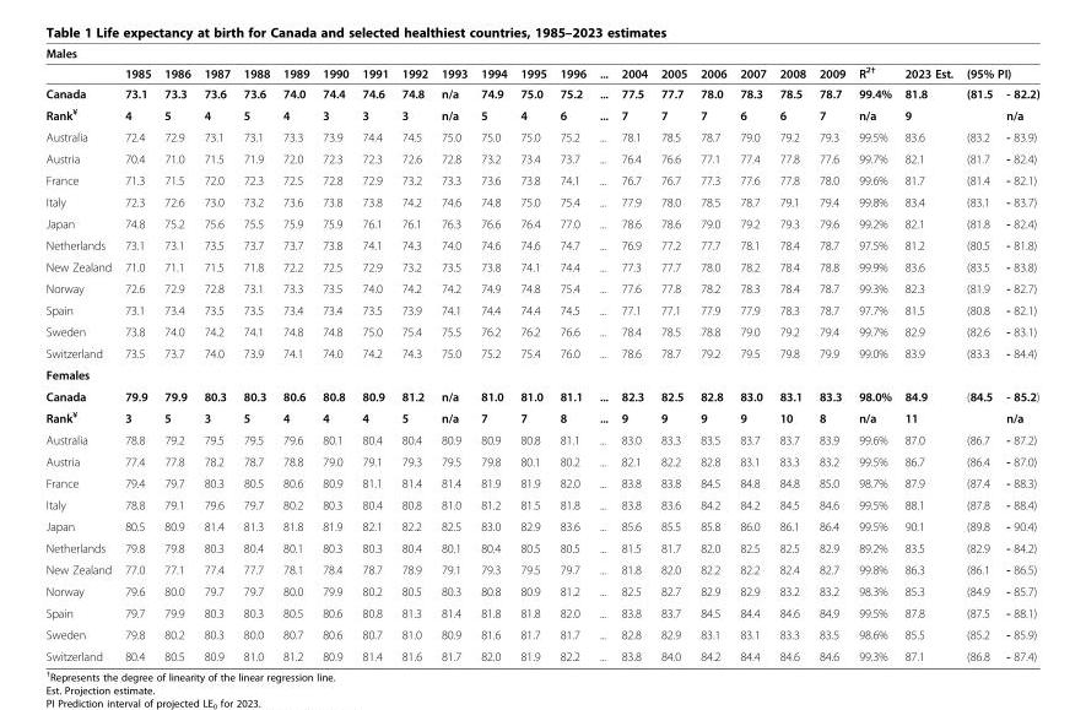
<table><thead><tr><td colspan="24">Males</td></tr><tr><td rowspan="2">Canada</td><td rowspan="2">1985 73.1</td><td rowspan="2">1986 73.3</td><td rowspan="2">1987 73.6</td><td rowspan="2">1988 73.6</td><td rowspan="2">1989 74.0</td><td rowspan="2">1990 74.4</td><td rowspan="2">1991 74.6</td><td rowspan="2">1992 74.8</td><td rowspan="2">1993 n/a</td><td rowspan="2">1994 74.9</td><td rowspan="2">1995 75.0</td><td rowspan="2">1996 75.2</td><td rowspan="2">... ...</td><td rowspan="2">2004 77.5</td><td rowspan="2">2005 77.7</td><td rowspan="2">2006 78.0</td><td rowspan="2">2007 78.3</td><td rowspan="2">2008 78.5</td><td rowspan="2">2009 78.7</td><td rowspan="2">R<sup>2†</sup> 99.4%</td><td rowspan="2">2023 Est. 81.8</td><td colspan="2">(95% PI)</td></tr><tr><td>(81.5</td><td>- 82.2)</td></tr></thead><tbody><tr><td>Rank<sup>¥</sup></td><td>4</td><td>5</td><td>4</td><td>5</td><td>4</td><td>3</td><td>3</td><td>3</td><td>n/a</td><td>5</td><td>4</td><td>6</td><td>...</td><td>7</td><td>7</td><td>7</td><td>6</td><td>6</td><td>7</td><td>n/a</td><td>9</td><td></td><td>n/a</td></tr><tr><td>Australia</td><td>72.4</td><td>72.9</td><td>73.1</td><td>73.1</td><td>73.3</td><td>73.9</td><td>74.4</td><td>74.5</td><td>75.0</td><td>75.0</td><td>75.0</td><td>75.2</td><td>...</td><td>78.1</td><td>78.5</td><td>78.7</td><td>79.0</td><td>79.2</td><td>79.3</td><td>99.5%</td><td>83.6</td><td>(83.2</td><td>- 83.9)</td></tr><tr><td>Austria</td><td>70.4</td><td>71.0</td><td>71.5</td><td>71.9</td><td>72.0</td><td>72.3</td><td>72.3</td><td>72.6</td><td>72.8</td><td>73.2</td><td>73.4</td><td>73.7</td><td>...</td><td>76.4</td><td>76.6</td><td>77.1</td><td>77.4</td><td>77.8</td><td>77.6</td><td>99.7%</td><td>82.1</td><td>(81.7</td><td>- 82.4)</td></tr><tr><td>France</td><td>71.3</td><td>71.5</td><td>72.0</td><td>72.3</td><td>72.5</td><td>72.8</td><td>72.9</td><td>73.2</td><td>73.3</td><td>73.6</td><td>73.8</td><td>74.1</td><td>...</td><td>76.7</td><td>76.7</td><td>77.3</td><td>77.6</td><td>77.8</td><td>78.0</td><td>99.6%</td><td>81.7</td><td>(81.4</td><td>- 82.1)</td></tr><tr><td>Italy</td><td>72.3</td><td>72.6</td><td>73.0</td><td>73.2</td><td>73.6</td><td>73.8</td><td>73.8</td><td>74.2</td><td>74.6</td><td>74.8</td><td>75.0</td><td>75.4</td><td>...</td><td>77.9</td><td>78.0</td><td>78.5</td><td>78.7</td><td>79.1</td><td>79.4</td><td>99.8%</td><td>83.4</td><td>(83.1</td><td>- 83.7)</td></tr><tr><td>Japan</td><td>74.8</td><td>75.2</td><td>75.6</td><td>75.5</td><td>75.9</td><td>75.9</td><td>76.1</td><td>76.1</td><td>76.3</td><td>76.6</td><td>76.4</td><td>77.0</td><td>...</td><td>78.6</td><td>78.6</td><td>79.0</td><td>79.2</td><td>79.3</td><td>79.6</td><td>99.2%</td><td>82.1</td><td>(81.8</td><td>- 82.4)</td></tr><tr><td>Netherlands</td><td>73.1</td><td>73.1</td><td>73.5</td><td>73.7</td><td>73.7</td><td>73.8</td><td>74.1</td><td>74.3</td><td>74.0</td><td>74.6</td><td>74.6</td><td>74.7</td><td>...</td><td>76.9</td><td>77.2</td><td>77.7</td><td>78.1</td><td>78.4</td><td>78.7</td><td>97.5%</td><td>81.2</td><td>(80.5</td><td>- 81.8)</td></tr><tr><td>New Zealand</td><td>71.0</td><td>71.1</td><td>71.5</td><td>71.8</td><td>72.2</td><td>72.5</td><td>72.9</td><td>73.2</td><td>73.5</td><td>73.8</td><td>74.1</td><td>74.4</td><td>...</td><td>77.3</td><td>77.7</td><td>78.0</td><td>78.2</td><td>78.4</td><td>78.8</td><td>99.9%</td><td>83.6</td><td>(83.5</td><td>- 83.8)</td></tr><tr><td>Norway</td><td>72.6</td><td>72.9</td><td>72.8</td><td>73.1</td><td>73.3</td><td>73.5</td><td>74.0</td><td>74.2</td><td>74.2</td><td>74.9</td><td>74.8</td><td>75.4</td><td>...</td><td>77.6</td><td>77.8</td><td>78.2</td><td>78.3</td><td>78.4</td><td>78.7</td><td>99.3%</td><td>82.3</td><td>(81.9</td><td>- 82.7)</td></tr><tr><td>Spain</td><td>73.1</td><td>73.4</td><td>73.5</td><td>73.5</td><td>73.4</td><td>73.4</td><td>73.5</td><td>73.9</td><td>74.1</td><td>74.4</td><td>74.4</td><td>74.5</td><td>...</td><td>77.1</td><td>77.1</td><td>77.9</td><td>77.9</td><td>78.3</td><td>78.7</td><td>97.7%</td><td>81.5</td><td>(80.8</td><td>- 82.1)</td></tr><tr><td>Sweden</td><td>73.8</td><td>74.0</td><td>74.2</td><td>74.1</td><td>74.8</td><td>74.8</td><td>75.0</td><td>75.4</td><td>75.5</td><td>76.2</td><td>76.2</td><td>76.6</td><td>...</td><td>78.4</td><td>78.5</td><td>78.8</td><td>79.0</td><td>79.2</td><td>79.4</td><td>99.7%</td><td>82.9</td><td>(82.6</td><td>- 83.1)</td></tr><tr><td>Switzerland</td><td>73.5</td><td>73.7</td><td>74.0</td><td>73.9</td><td>74.1</td><td>74.0</td><td>74.2</td><td>74.3</td><td>75.0</td><td>75.2</td><td>75.4</td><td>76.0</td><td>...</td><td>78.6</td><td>78.7</td><td>79.2</td><td>79.5</td><td>79.8</td><td>79.9</td><td>99.0%</td><td>83.9</td><td>(83.3</td><td>- 84.4)</td></tr><tr><td colspan="24">Females</td></tr><tr><td>Canada</td><td>79.9</td><td>79.9</td><td>80.3</td><td>80.3</td><td>80.6</td><td>80.8</td><td>80.9</td><td>81.2</td><td>n/a</td><td>81.0</td><td>81.0</td><td>81.1</td><td>...</td><td>82.3</td><td>82.5</td><td>82.8</td><td>83.0</td><td>83.1</td><td>83.3</td><td>98.0%</td><td>84.9</td><td>(84.5</td><td>- 85.2)</td></tr><tr><td>Rank<sup>¥</sup></td><td>3</td><td>5</td><td>3</td><td>5</td><td>4</td><td>4</td><td>4</td><td>5</td><td>n/a</td><td>7</td><td>7</td><td>8</td><td>...</td><td>9</td><td>9</td><td>9</td><td>9</td><td>10</td><td>8</td><td>n/a</td><td>11</td><td></td><td>n/a</td></tr><tr><td>Australia</td><td>78.8</td><td>79.2</td><td>79.5</td><td>79.5</td><td>79.6</td><td>80.1</td><td>80.4</td><td>80.4</td><td>80.9</td><td>80.9</td><td>80.8</td><td>81.1</td><td>...</td><td>83.0</td><td>83.3</td><td>83.5</td><td>83.7</td><td>83.7</td><td>83.9</td><td>99.6%</td><td>87.0</td><td>(86.7</td><td>- 87.2)</td></tr><tr><td>Austria</td><td>77.4</td><td>77.8</td><td>78.2</td><td>78.7</td><td>78.8</td><td>79.0</td><td>79.1</td><td>79.3</td><td>79.5</td><td>79.8</td><td>80.1</td><td>80.2</td><td>...</td><td>82.1</td><td>82.2</td><td>82.8</td><td>83.1</td><td>83.3</td><td>83.2</td><td>99.5%</td><td>86.7</td><td>(86.4</td><td>- 87.0)</td></tr><tr><td>France</td><td>79.4</td><td>79.7</td><td>80.3</td><td>80.5</td><td>80.6</td><td>80.9</td><td>81.1</td><td>81.4</td><td>81.4</td><td>81.9</td><td>81.9</td><td>82.0</td><td>...</td><td>83.8</td><td>83.8</td><td>84.5</td><td>84.8</td><td>84.8</td><td>85.0</td><td>98.7%</td><td>87.9</td><td>(87.4</td><td>- 88.3)</td></tr><tr><td>Italy</td><td>78.8</td><td>79.1</td><td>79.6</td><td>79.7</td><td>80.2</td><td>80.3</td><td>80.4</td><td>80.8</td><td>81.0</td><td>81.2</td><td>81.5</td><td>81.8</td><td>...</td><td>83.8</td><td>83.6</td><td>84.2</td><td>84.2</td><td>84.5</td><td>84.6</td><td>99.5%</td><td>88.1</td><td>(87.8</td><td>- 88.4)</td></tr><tr><td>Japan</td><td>80.5</td><td>80.9</td><td>81.4</td><td>81.3</td><td>81.8</td><td>81.9</td><td>82.1</td><td>82.2</td><td>82.5</td><td>83.0</td><td>82.9</td><td>83.6</td><td>...</td><td>85.6</td><td>85.5</td><td>85.8</td><td>86.0</td><td>86.1</td><td>86.4</td><td>99.5%</td><td>90.1</td><td>(89.8</td><td>- 90.4)</td></tr><tr><td>Netherlands</td><td>79.8</td><td>79.8</td><td>80.3</td><td>80.4</td><td>80.1</td><td>80.3</td><td>80.3</td><td>80.4</td><td>80.1</td><td>80.4</td><td>80.5</td><td>80.5</td><td>...</td><td>81.5</td><td>81.7</td><td>82.0</td><td>82.5</td><td>82.5</td><td>82.9</td><td>89.2%</td><td>83.5</td><td>(82.9</td><td>- 84.2)</td></tr><tr><td>New Zealand</td><td>77.0</td><td>77.1</td><td>77.4</td><td>77.7</td><td>78.1</td><td>78.4</td><td>78.7</td><td>78.9</td><td>79.1</td><td>79.3</td><td>79.5</td><td>79.7</td><td>...</td><td>81.8</td><td>82.0</td><td>82.2</td><td>82.2</td><td>82.4</td><td>82.7</td><td>99.8%</td><td>86.3</td><td>(86.1</td><td>- 86.5)</td></tr><tr><td>Norway</td><td>79.6</td><td>80.0</td><td>79.7</td><td>79.7</td><td>80.0</td><td>79.9</td><td>80.2</td><td>80.5</td><td>80.3</td><td>80.8</td><td>80.9</td><td>81.2</td><td>...</td><td>82.5</td><td>82.7</td><td>82.9</td><td>82.9</td><td>83.2</td><td>83.2</td><td>98.3%</td><td>85.3</td><td>(84.9</td><td>- 85.7)</td></tr><tr><td>Spain</td><td>79.7</td><td>79.9</td><td>80.3</td><td>80.3</td><td>80.5</td><td>80.6</td><td>80.8</td><td>81.3</td><td>81.4</td><td>81.8</td><td>81.8</td><td>82.0</td><td>...</td><td>83.8</td><td>83.7</td><td>84.5</td><td>84.4</td><td>84.6</td><td>84.9</td><td>99.5%</td><td>87.8</td><td>(87.5</td><td>- 88.1)</td></tr><tr><td>Sweden</td><td>79.8</td><td>80.2</td><td>80.3</td><td>80.0</td><td>80.7</td><td>80.6</td><td>80.7</td><td>81.0</td><td>80.9</td><td>81.6</td><td>81.7</td><td>81.7</td><td>...</td><td>82.8</td><td>82.9</td><td>83.1</td><td>83.1</td><td>83.3</td><td>83.5</td><td>98.6%</td><td>85.5</td><td>(85.2</td><td>- 85.9)</td></tr><tr><td>Switzerland</td><td>80.4</td><td>80.5</td><td>80.9</td><td>81.0</td><td>81.2</td><td>80.9</td><td>81.4</td><td>81.6</td><td>81.7</td><td>82.0</td><td>81.9</td><td>82.2</td><td>...</td><td>83.8</td><td>84.0</td><td>84.2</td><td>84.4</td><td>84.6</td><td>84.6</td><td>99.3%</td><td>87.1</td><td>(86.8</td><td>- 87.4)</td></tr></tbody></table>